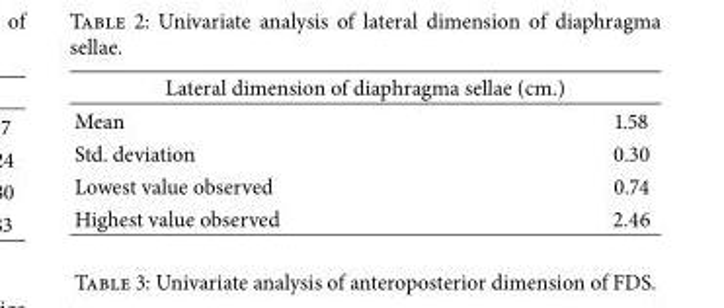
<table><thead><tr><td colspan="2">Lateral dimension of diaphragma sellae (cm.)</td></tr><tr><td>Mean</td><td>1.58</td></tr></thead><tbody><tr><td>Std. deviation</td><td>0.30</td></tr><tr><td>Lowest value observed</td><td>0.74</td></tr><tr><td>Highest value observed</td><td>2.46</td></tr></tbody></table>